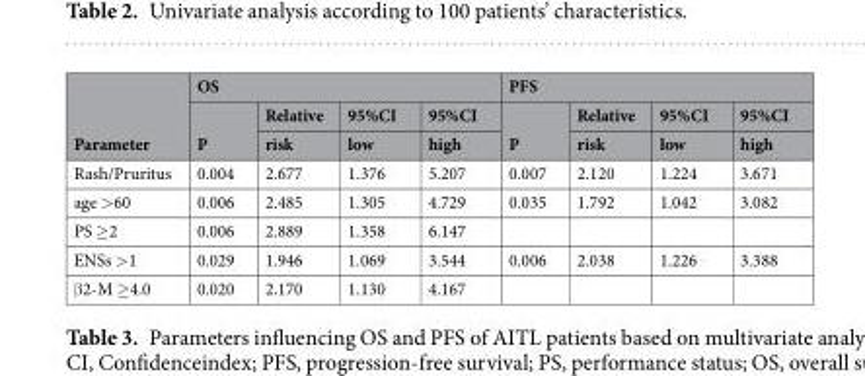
<table><thead><tr><td rowspan="3">Parameter</td><td colspan="4">OS</td><td colspan="4">PFS</td></tr><tr><td rowspan="2">P</td><td rowspan="2">Relative risk</td><td rowspan="2">95%CI low</td><td rowspan="2">95%CI high</td><td rowspan="2">P</td><td rowspan="2">Relative risk</td><td rowspan="2">95%CI low</td><td rowspan="2">95%CI high</td></tr><tr></tr></thead><tbody><tr><td>Rash/Pruritus</td><td>0.004</td><td>2.677</td><td>1.376</td><td>5.207</td><td>0.007</td><td>2.120</td><td>1.224</td><td>3.671</td></tr><tr><td>age &gt;60</td><td>0.006</td><td>2.485</td><td>1.305</td><td>4.729</td><td>0.035</td><td>1.792</td><td>1.042</td><td>3.082</td></tr><tr><td>PS ≥2</td><td>0.006</td><td>2.889</td><td>1.358</td><td>6.147</td><td></td><td></td><td></td><td></td></tr><tr><td>ENSs &gt;1</td><td>0.029</td><td>1.946</td><td>1.069</td><td>3.544</td><td>0.006</td><td>2.038</td><td>1.226</td><td>3.388</td></tr><tr><td>β2-M ≥4.0</td><td>0.020</td><td>2.170</td><td>1.130</td><td>4.167</td><td></td><td></td><td></td><td></td></tr></tbody></table>